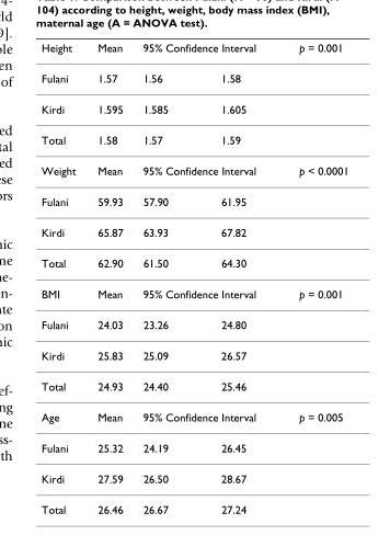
<table><thead><tr><td rowspan="2">Height Fulani</td><td rowspan="2">Mean 1.57</td><td colspan="2">95% Confidence Interval</td><td rowspan="2">p = 0.001</td></tr><tr><td>1.56</td><td>1.58</td></tr></thead><tbody><tr><td>Kirdi</td><td>1.595</td><td>1.585</td><td>1.605</td><td></td></tr><tr><td>Total</td><td>1.58</td><td>1.57</td><td>1.59</td><td></td></tr><tr><td>Weight</td><td>Mean</td><td colspan="2">95% Confidence Interval</td><td>p &lt; 0.0001</td></tr><tr><td>Fulani</td><td>59.93</td><td>57.90</td><td>61.95</td><td></td></tr><tr><td>Kirdi</td><td>65.87</td><td>63.93</td><td>67.82</td><td></td></tr><tr><td>Total</td><td>62.90</td><td>61.50</td><td>64.30</td><td></td></tr><tr><td>BMI</td><td>Mean</td><td colspan="2">95% Confidence Interval</td><td>p = 0.001</td></tr><tr><td>Fulani</td><td>24.03</td><td>23.26</td><td>24.80</td><td></td></tr><tr><td>Kirdi</td><td>25.83</td><td>25.09</td><td>26.57</td><td></td></tr><tr><td>Total</td><td>24.93</td><td>24.40</td><td>25.46</td><td></td></tr><tr><td>Age</td><td>Mean</td><td colspan="2">95% Confidence Interval</td><td>p = 0.005</td></tr><tr><td>Fulani</td><td>25.32</td><td>24.19</td><td>26.45</td><td></td></tr><tr><td>Kirdi</td><td>27.59</td><td>26.50</td><td>28.67</td><td></td></tr><tr><td>Total</td><td>26.46</td><td>26.67</td><td>27.24</td><td></td></tr></tbody></table>